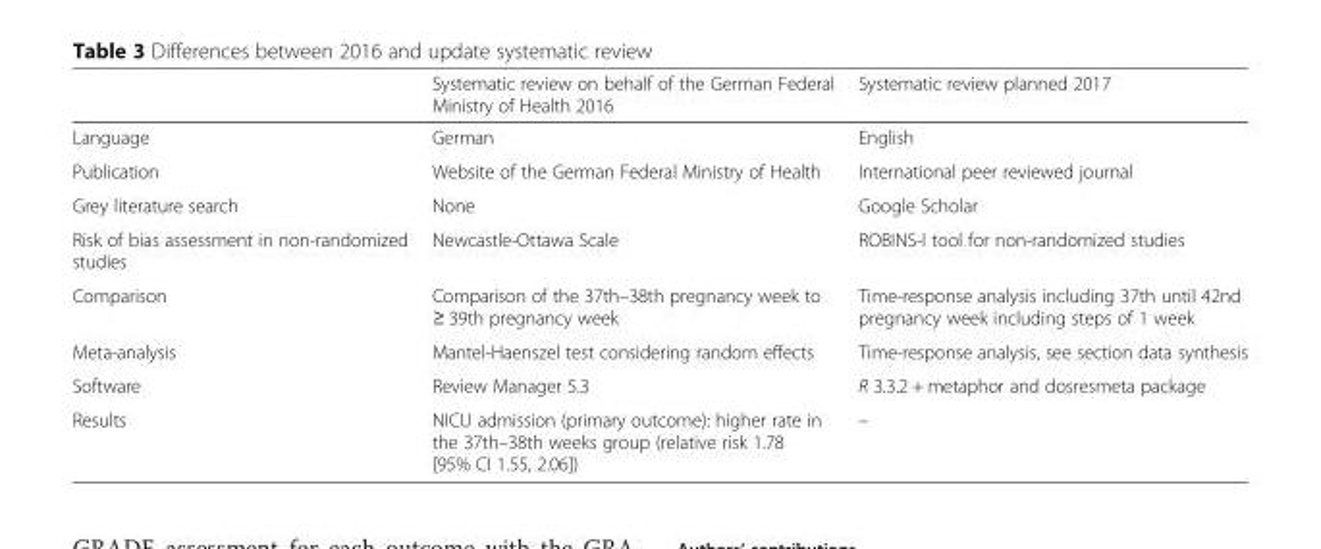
<table><thead><tr><td></td><td>Systematic review on behalf of the German Federal Ministry of Health 2016</td><td>Systematic review planned 2017</td></tr></thead><tbody><tr><td>Language</td><td>German</td><td>English</td></tr><tr><td>Publication</td><td>Website of the German Federal Ministry of Health</td><td>International peer reviewed journal</td></tr><tr><td>Grey literature search</td><td>None</td><td>Google Scholar</td></tr><tr><td>Risk of bias assessment in non-randomized studies</td><td>Newcastle-Ottawa Scale</td><td>ROBINS-I tool for non-randomized studies</td></tr><tr><td>Comparison</td><td>Comparison of the 37th–38th pregnancy week to ≥ 39th pregnancy week</td><td>Time-response analysis including 37th until 42nd pregnancy week including steps of 1 week</td></tr><tr><td>Meta-analysis</td><td>Mantel-Haenszel test considering random effects</td><td>Time-response analysis, see section data synthesis</td></tr><tr><td>Software</td><td>Review Manager 5.3</td><td>R 3.3.2 + metaphor and dosresmeta package</td></tr><tr><td>Results</td><td>NICU admission (primary outcome): higher rate in the 37th–38th weeks group (relative risk 1.78 [95% CI 1.55, 2.06])</td><td>–</td></tr></tbody></table>